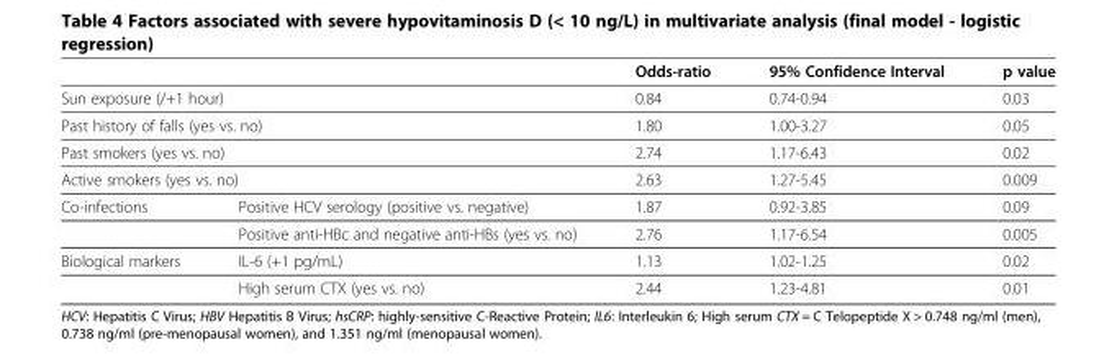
<table><thead><tr><td></td><td></td><td>Odds-ratio</td><td>95% Confidence Interval</td><td>p value</td></tr></thead><tbody><tr><td colspan="2">Sun exposure (/+1 hour)</td><td>0.84</td><td>0.74-0.94</td><td>0.03</td></tr><tr><td colspan="2">Past history of falls (yes vs. no)</td><td>1.80</td><td>1.00-3.27</td><td>0.05</td></tr><tr><td colspan="2">Past smokers (yes vs. no)</td><td>2.74</td><td>1.17-6.43</td><td>0.02</td></tr><tr><td colspan="2">Active smokers (yes vs. no)</td><td>2.63</td><td>1.27-5.45</td><td>0.009</td></tr><tr><td rowspan="2">Co-infections</td><td>Positive HCV serology (positive vs. negative)</td><td>1.87</td><td>0.92-3.85</td><td>0.09</td></tr><tr><td>Positive anti-HBc and negative anti-HBs (yes vs. no)</td><td>2.76</td><td>1.17-6.54</td><td>0.005</td></tr><tr><td rowspan="2">Biological markers</td><td>IL-6 (+1 pg/mL)</td><td>1.13</td><td>1.02-1.25</td><td>0.02</td></tr><tr><td>High serum CTX (yes vs. no)</td><td>2.44</td><td>1.23-4.81</td><td>0.01</td></tr></tbody></table>